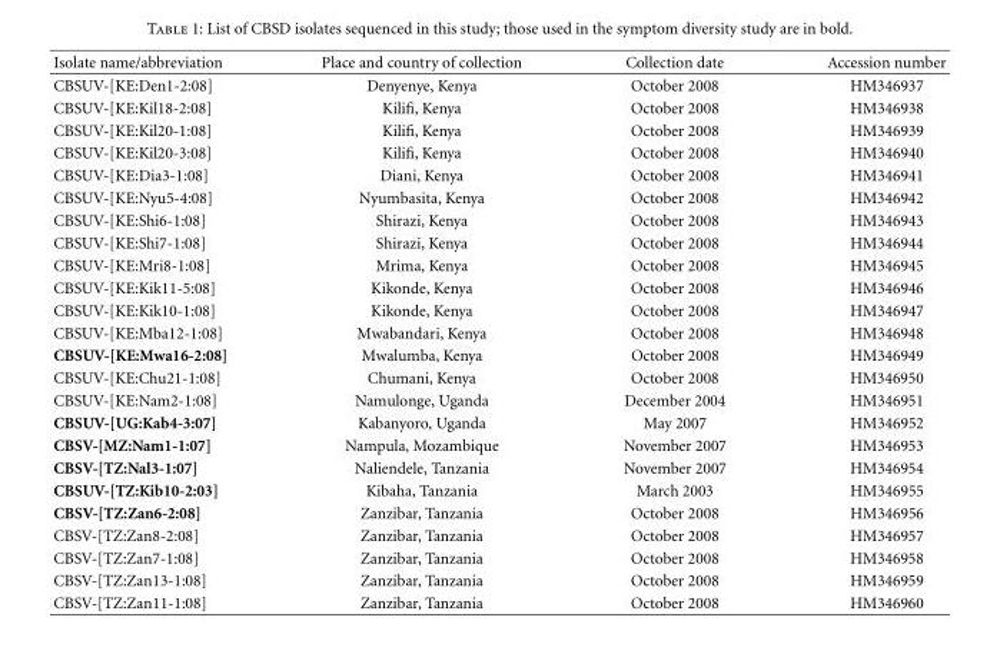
<table><thead><tr><td>Isolate name/abbreviation</td><td>Place and country of collection</td><td>Collection date</td><td>Accession number</td></tr></thead><tbody><tr><td>CBSUV-[KE:Den1-2:08]</td><td>Denyenye, Kenya</td><td>October 2008</td><td>HM346937</td></tr><tr><td>CBSUV-[KE:Kil18-2:08]</td><td>Kilifi, Kenya</td><td>October 2008</td><td>HM346938</td></tr><tr><td>CBSUV-[KE:Kil20-1:08]</td><td>Kilifi, Kenya</td><td>October 2008</td><td>HM346939</td></tr><tr><td>CBSUV-[KE:Kil20-3:08]</td><td>Kilifi, Kenya</td><td>October 2008</td><td>HM346940</td></tr><tr><td>CBSUV-[KE:Dia3-1:08]</td><td>Diani, Kenya</td><td>October 2008</td><td>HM346941</td></tr><tr><td>CBSUV-[KE:Nyu5-4:08]</td><td>Nyumbasita, Kenya</td><td>October 2008</td><td>HM346942</td></tr><tr><td>CBSUV-[KE:Shi6-1:08]</td><td>Shirazi, Kenya</td><td>October 2008</td><td>HM346943</td></tr><tr><td>CBSUV-[KE:Shi7-1:08]</td><td>Shirazi, Kenya</td><td>October 2008</td><td>HM346944</td></tr><tr><td>CBSUV-[KE:Mri8-1:08]</td><td>Mrima, Kenya</td><td>October 2008</td><td>HM346945</td></tr><tr><td>CBSUV-[KE:Kik11-5:08]</td><td>Kikonde, Kenya</td><td>October 2008</td><td>HM346946</td></tr><tr><td>CBSUV-[KE:Kik10-1:08]</td><td>Kikonde, Kenya</td><td>October 2008</td><td>HM346947</td></tr><tr><td>CBSUV-[KE:Mba12-1:08]</td><td>Mwabandari, Kenya</td><td>October 2008</td><td>HM346948</td></tr><tr><td>CBSUV-[KE:Mwa16-2:08]</td><td>Mwalumba, Kenya</td><td>October 2008</td><td>HM346949</td></tr><tr><td>CBSUV-[KE:Chu21-1:08]</td><td>Chumani, Kenya</td><td>October 2008</td><td>HM346950</td></tr><tr><td>CBSUV-[KE:Nam2-1:08]</td><td>Namulonge, Uganda</td><td>December 2004</td><td>HM346951</td></tr><tr><td>CBSUV-[UG:Kab4-3:07]</td><td>Kabanyoro, Uganda</td><td>May 2007</td><td>HM346952</td></tr><tr><td>CBSV-[MZ:Nam1-1:07]</td><td>Nampula, Mozambique</td><td>November 2007</td><td>HM346953</td></tr><tr><td>CBSV-[TZ:Nal3-1:07]</td><td>Naliendele, Tanzania</td><td>November 2007</td><td>HM346954</td></tr><tr><td>CBSUV-[TZ:Kib10-2:03]</td><td>Kibaha, Tanzania</td><td>March 2003</td><td>HM346955</td></tr><tr><td>CBSV-[TZ:Zan6-2:08]</td><td>Zanzibar, Tanzania</td><td>October 2008</td><td>HM346956</td></tr><tr><td>CBSV-[TZ:Zan8-2:08]</td><td>Zanzibar, Tanzania</td><td>October 2008</td><td>HM346957</td></tr><tr><td>CBSV-[TZ:Zan7-1:08]</td><td>Zanzibar, Tanzania</td><td>October 2008</td><td>HM346958</td></tr><tr><td>CBSV-[TZ:Zan13-1:08]</td><td>Zanzibar, Tanzania</td><td>October 2008</td><td>HM346959</td></tr><tr><td>CBSV-[TZ:Zan11-1:08]</td><td>Zanzibar, Tanzania</td><td>October 2008</td><td>HM346960</td></tr></tbody></table>